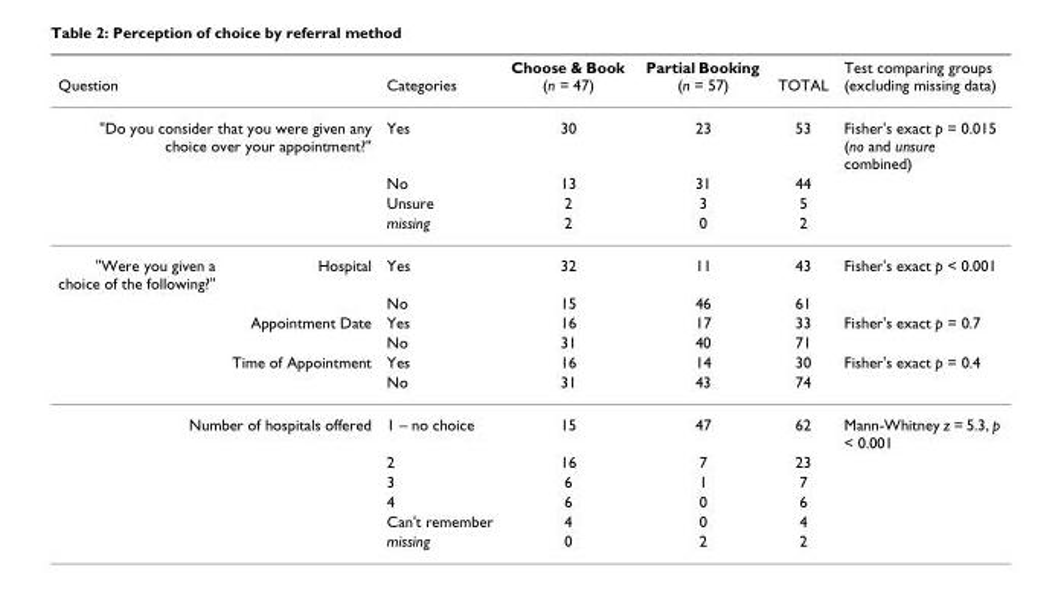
<table><thead><tr><td rowspan="2" colspan="2">Question &quot;Do you consider that you were given any choice over your appointment?&quot;</td><td rowspan="3">Categories Yes No</td><td rowspan="3">Choose &amp; Book (n = 47) 30 13</td><td rowspan="3">Partial Booking (n = 57) 23 31</td><td rowspan="3">TOTAL 53 44</td><td rowspan="3">Test comparing groups (excluding missing data) Fisher&#x27;s exact p = 0.015 (no and unsure combined)</td></tr><tr></tr><tr><td></td><td></td></tr></thead><tbody><tr><td></td><td></td><td>Unsure</td><td>2</td><td>3</td><td>5</td><td></td></tr><tr><td></td><td></td><td>missing</td><td>2</td><td>0</td><td>2</td><td></td></tr><tr><td rowspan="6">&quot;Were you given a choice of the following?&quot;</td><td>Hospital</td><td>Yes</td><td>32</td><td>11</td><td>43</td><td>Fisher&#x27;s exact p &lt; 0.001</td></tr><tr><td></td><td>No</td><td>15</td><td>46</td><td>61</td><td></td></tr><tr><td>Appointment Date</td><td>Yes</td><td>16</td><td>17</td><td>33</td><td>Fisher&#x27;s exact p = 0.7</td></tr><tr><td></td><td>No</td><td>31</td><td>40</td><td>71</td><td></td></tr><tr><td>Time of Appointment</td><td>Yes</td><td>16</td><td>14</td><td>30</td><td>Fisher&#x27;s exact p = 0.4</td></tr><tr><td></td><td>No</td><td>31</td><td>43</td><td>74</td><td></td></tr><tr><td colspan="2">Number of hospitals offered</td><td>1 – no choice</td><td>15</td><td>47</td><td>62</td><td>Mann-Whitney z = 5.3, p &lt; 0.001</td></tr><tr><td></td><td></td><td>2</td><td>16</td><td>7</td><td>23</td><td></td></tr><tr><td></td><td></td><td>3</td><td>6</td><td>1</td><td>7</td><td></td></tr><tr><td></td><td></td><td>4</td><td>6</td><td>0</td><td>6</td><td></td></tr><tr><td></td><td></td><td>Can&#x27;t remember</td><td>4</td><td>0</td><td>4</td><td></td></tr><tr><td></td><td></td><td>missing</td><td>0</td><td>2</td><td>2</td><td></td></tr></tbody></table>